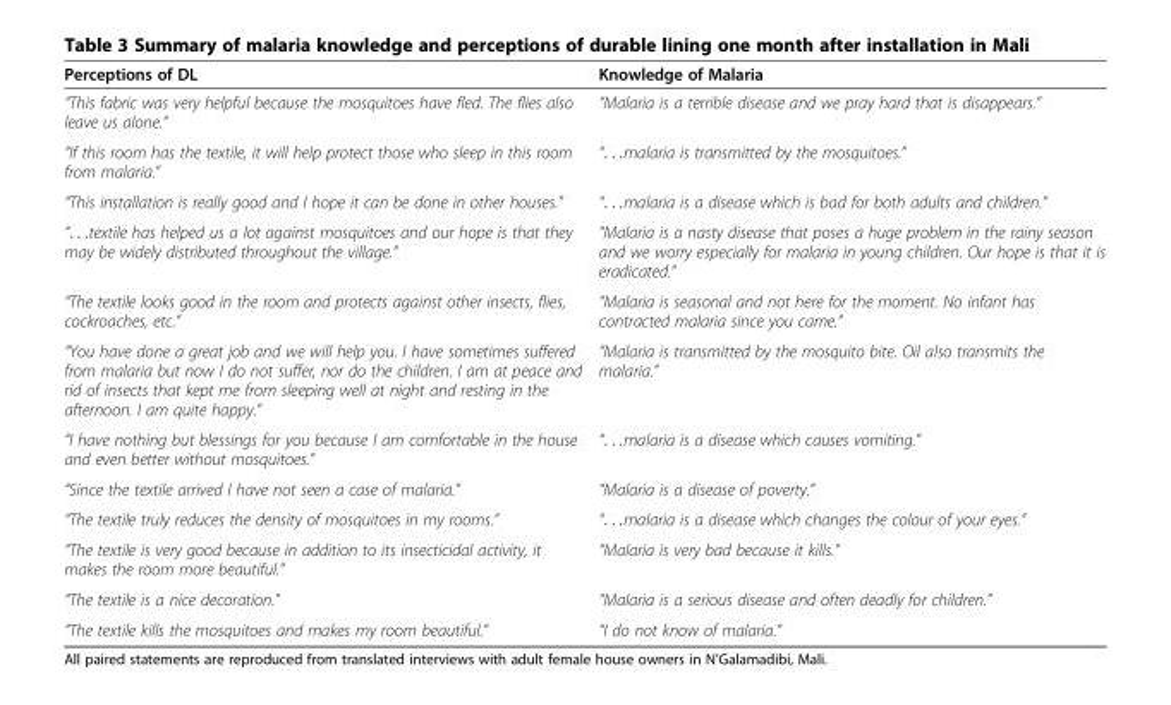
<table><thead><tr><td>Perceptions of DL</td><td>Knowledge of Malaria</td></tr></thead><tbody><tr><td>“This fabric was very helpful because the mosquitoes have fled. The flies also leave us alone.”</td><td>“Malaria is a terrible disease and we pray hard that is disappears.”</td></tr><tr><td>“If this room has the textile, it will help protect those who sleep in this room from malaria.”</td><td>“. . .malaria is transmitted by the mosquitoes.”</td></tr><tr><td>“This installation is really good and I hope it can be done in other houses.”</td><td>“. . .malaria is a disease which is bad for both adults and children.”</td></tr><tr><td>“. . .textile has helped us a lot against mosquitoes and our hope is that they may be widely distributed throughout the village.”</td><td>“Malaria is a nasty disease that poses a huge problem in the rainy season and we worry especially for malaria in young children. Our hope is that it is eradicated.”</td></tr><tr><td>“The textile looks good in the room and protects against other insects, flies, cockroaches, etc.”</td><td>“Malaria is seasonal and not here for the moment. No infant has contracted malaria since you came.”</td></tr><tr><td>“You have done a great job and we will help you. I have sometimes suffered from malaria but now I do not suffer, nor do the children. I am at peace and rid of insects that kept me from sleeping well at night and resting in the afternoon. I am quite happy.”</td><td>“Malaria is transmitted by the mosquito bite. Oil also transmits the malaria.”</td></tr><tr><td>“I have nothing but blessings for you because I am comfortable in the house and even better without mosquitoes.”</td><td>“. . .malaria is a disease which causes vomiting.”</td></tr><tr><td>“Since the textile arrived I have not seen a case of malaria.”</td><td>“Malaria is a disease of poverty.”</td></tr><tr><td>“The textile truly reduces the density of mosquitoes in my rooms.”</td><td>“. . .malaria is a disease which changes the colour of your eyes.”</td></tr><tr><td>“The textile is very good because in addition to its insecticidal activity, it makes the room more beautiful.”</td><td>“Malaria is very bad because it kills.”</td></tr><tr><td>“The textile is a nice decoration.”</td><td>“Malaria is a serious disease and often deadly for children.”</td></tr><tr><td>“The textile kills the mosquitoes and makes my room beautiful.”</td><td>“I do not know of malaria.”</td></tr></tbody></table>